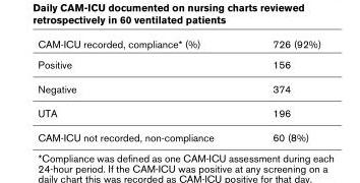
<table><thead><tr><td>CAM-ICU recorded, compliance* (%)</td><td>726 (92%)</td></tr></thead><tbody><tr><td>Positive</td><td>156</td></tr><tr><td>Negative</td><td>374</td></tr><tr><td>UTA</td><td>196</td></tr><tr><td>CAM-ICU not recorded, non-compliance</td><td>60 (8%)</td></tr></tbody></table>